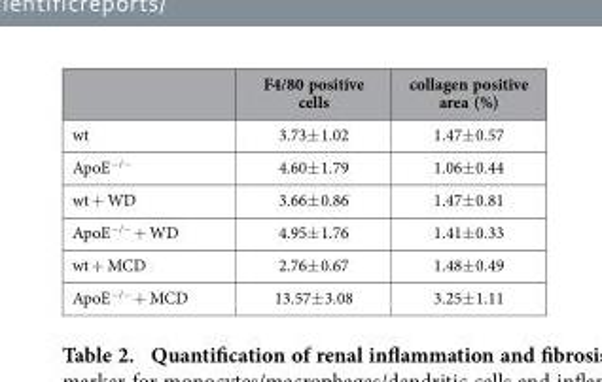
<table><thead><tr><td></td><td>F4/80 positive cells</td><td>collagen positive area (%)</td></tr></thead><tbody><tr><td>wt</td><td>3.73± 1.02</td><td>1.47± 0.57</td></tr><tr><td>ApoE<sup>−/−</sup></td><td>4.60± 1.79</td><td>1.06± 0.44</td></tr><tr><td>wt + WD</td><td>3.66± 0.86</td><td>1.47± 0.81</td></tr><tr><td>ApoE<sup>−/−</sup> + WD</td><td>4.95± 1.76</td><td>1.41± 0.33</td></tr><tr><td>wt + MCD</td><td>2.76± 0.67</td><td>1.48± 0.49</td></tr><tr><td>ApoE<sup>−/−</sup> + MCD</td><td>13.57± 3.08</td><td>3.25± 1.11</td></tr></tbody></table>